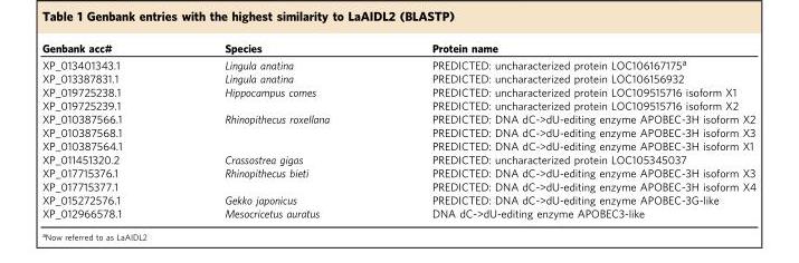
<table><thead><tr><td>Genbank acc#</td><td>Species</td><td>Protein name</td></tr></thead><tbody><tr><td>XP_013401343.1</td><td>Lingula anatina</td><td>PREDICTED: uncharacterized protein LOC106167175<sup>a</sup></td></tr><tr><td>XP_013387831.1</td><td>Lingula anatina</td><td>PREDICTED: uncharacterized protein LOC106156932</td></tr><tr><td>XP_019725238.1</td><td>Hippocampus comes</td><td>PREDICTED: uncharacterized protein LOC109515716 isoform X1</td></tr><tr><td>XP_019725239.1</td><td></td><td>PREDICTED: uncharacterized protein LOC109515716 isoform X2</td></tr><tr><td>XP_010387566.1</td><td>Rhinopithecus roxellana</td><td>PREDICTED: DNA dC-&gt;dU-editing enzyme APOBEC-3H isoform X2</td></tr><tr><td>XP_010387568.1</td><td></td><td>PREDICTED: DNA dC-&gt;dU-editing enzyme APOBEC-3H isoform X3</td></tr><tr><td>XP_010387564.1</td><td></td><td>PREDICTED: DNA dC-&gt;dU-editing enzyme APOBEC-3H isoform X1</td></tr><tr><td>XP_011451320.2</td><td>Crassostrea gigas</td><td>PREDICTED: uncharacterized protein LOC105345037</td></tr><tr><td>XP_017715376.1</td><td>Rhinopithecus bieti</td><td>PREDICTED: DNA dC-&gt;dU-editing enzyme APOBEC-3H isoform X3</td></tr><tr><td>XP_017715377.1</td><td></td><td>PREDICTED: DNA dC-&gt;dU-editing enzyme APOBEC-3H isoform X4</td></tr><tr><td>XP_015272576.1</td><td>Gekko japonicus</td><td>PREDICTED: DNA dC-&gt;dU-editing enzyme APOBEC-3G-like</td></tr><tr><td>XP_012966578.1</td><td>Mesocricetus auratus</td><td>DNA dC-&gt;dU-editing enzyme APOBEC3-like</td></tr></tbody></table>